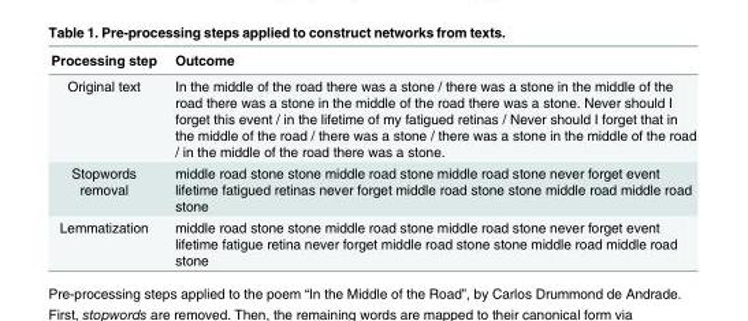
<table><thead><tr><td>Processing step</td><td>Outcome</td></tr></thead><tbody><tr><td>Original text</td><td>In the middle of the road there was a stone / there was a stone in the middle of the road there was a stone in the middle of the road there was a stone. Never should I forget this event / in the lifetime of my fatigued retinas / Never should I forget that in the middle of the road / there was a stone / there was a stone in the middle of the road / in the middle of the road there was a stone.</td></tr><tr><td>Stopwords removal</td><td>middle road stone stone middle road stone middle road stone never forget event lifetime fatigued retinas never forget middle road stone stone middle road middle road stone</td></tr><tr><td>Lemmatization</td><td>middle road stone stone middle road stone middle road stone never forget event lifetime fatigue retina never forget middle road stone stone middle road middle road stone</td></tr></tbody></table>